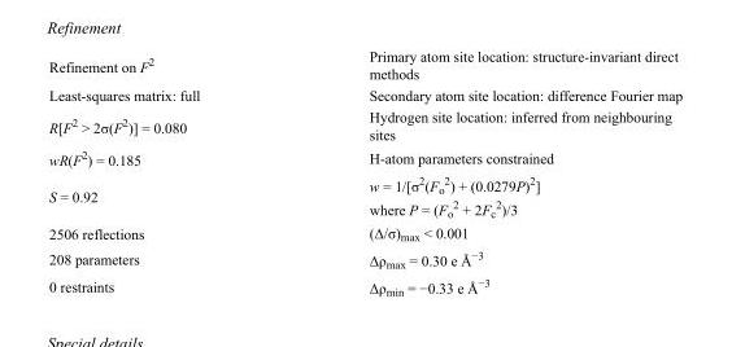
<table><tbody><tr><td>Refinement on F<sup>2</sup></td><td>Primary atom site location: structure-invariant direct methods</td></tr><tr><td>Least-squares matrix: full</td><td>Secondary atom site location: difference Fourier map</td></tr><tr><td>R[F<sup>2</sup> &gt; 2σ(F<sup>2</sup>)] = 0.080</td><td>Hydrogen site location: inferred from neighbouring sites</td></tr><tr><td>wR(F<sup>2</sup>) = 0.185</td><td>H-atom parameters constrained</td></tr><tr><td>S = 0.92</td><td>w = 1/[σ<sup>2</sup>(F<sub>o</sub> <sup>2</sup>) + (0.0279P)<sup>2</sup>] where P = (F<sub>o</sub> <sup>2</sup> + 2F<sub>c</sub> <sup>2</sup>)/3</td></tr><tr><td>2506 reflections</td><td>(Δ/σ)<sub>max</sub> &lt; 0.001</td></tr><tr><td>208 parameters</td><td>Δρ<sub>max</sub> = 0.30 e Å<sup>−3</sup></td></tr><tr><td>0 restraints</td><td>Δρ<sub>min</sub> = −0.33 e Å<sup>−3</sup></td></tr></tbody></table>